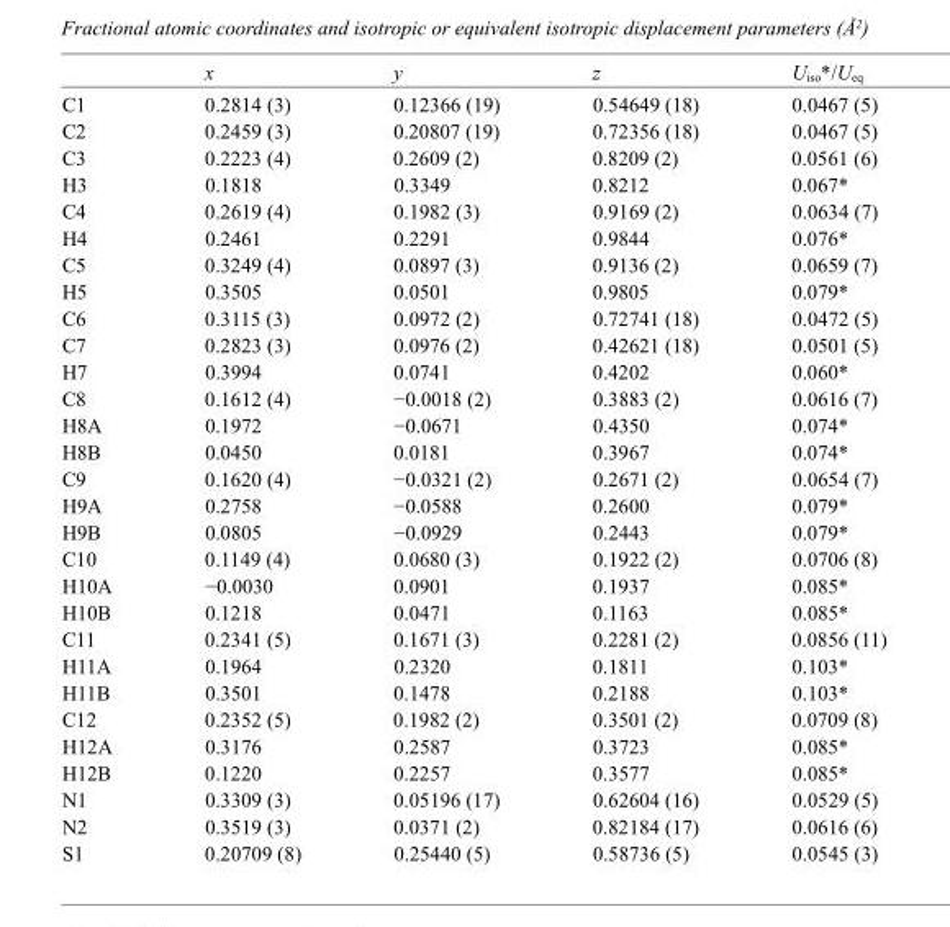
<table><thead><tr><td></td><td>x</td><td>y</td><td>z</td><td>U<sub>iso</sub>*/U<sub>eq</sub></td></tr></thead><tbody><tr><td>C1</td><td>0.2814 (3)</td><td>0.12366 (19)</td><td>0.54649 (18)</td><td>0.0467 (5)</td></tr><tr><td>C2</td><td>0.2459 (3)</td><td>0.20807 (19)</td><td>0.72356 (18)</td><td>0.0467 (5)</td></tr><tr><td>C3</td><td>0.2223 (4)</td><td>0.2609 (2)</td><td>0.8209 (2)</td><td>0.0561 (6)</td></tr><tr><td>H3</td><td>0.1818</td><td>0.3349</td><td>0.8212</td><td>0.067*</td></tr><tr><td>C4</td><td>0.2619 (4)</td><td>0.1982 (3)</td><td>0.9169 (2)</td><td>0.0634 (7)</td></tr><tr><td>H4</td><td>0.2461</td><td>0.2291</td><td>0.9844</td><td>0.076*</td></tr><tr><td>C5</td><td>0.3249 (4)</td><td>0.0897 (3)</td><td>0.9136 (2)</td><td>0.0659 (7)</td></tr><tr><td>H5</td><td>0.3505</td><td>0.0501</td><td>0.9805</td><td>0.079*</td></tr><tr><td>C6</td><td>0.3115 (3)</td><td>0.0972 (2)</td><td>0.72741 (18)</td><td>0.0472 (5)</td></tr><tr><td>C7</td><td>0.2823 (3)</td><td>0.0976 (2)</td><td>0.42621 (18)</td><td>0.0501 (5)</td></tr><tr><td>H7</td><td>0.3994</td><td>0.0741</td><td>0.4202</td><td>0.060*</td></tr><tr><td>C8</td><td>0.1612 (4)</td><td>−0.0018 (2)</td><td>0.3883 (2)</td><td>0.0616 (7)</td></tr><tr><td>H8A</td><td>0.1972</td><td>−0.0671</td><td>0.4350</td><td>0.074*</td></tr><tr><td>H8B</td><td>0.0450</td><td>0.0181</td><td>0.3967</td><td>0.074*</td></tr><tr><td>C9</td><td>0.1620 (4)</td><td>−0.0321 (2)</td><td>0.2671 (2)</td><td>0.0654 (7)</td></tr><tr><td>H9A</td><td>0.2758</td><td>−0.0588</td><td>0.2600</td><td>0.079*</td></tr><tr><td>H9B</td><td>0.0805</td><td>−0.0929</td><td>0.2443</td><td>0.079*</td></tr><tr><td>C10</td><td>0.1149 (4)</td><td>0.0680 (3)</td><td>0.1922 (2)</td><td>0.0706 (8)</td></tr><tr><td>H10A</td><td>−0.0030</td><td>0.0901</td><td>0.1937</td><td>0.085*</td></tr><tr><td>H10B</td><td>0.1218</td><td>0.0471</td><td>0.1163</td><td>0.085*</td></tr><tr><td>C11</td><td>0.2341 (5)</td><td>0.1671 (3)</td><td>0.2281 (2)</td><td>0.0856 (11)</td></tr><tr><td>H11A</td><td>0.1964</td><td>0.2320</td><td>0.1811</td><td>0.103*</td></tr><tr><td>H11B</td><td>0.3501</td><td>0.1478</td><td>0.2188</td><td>0.103*</td></tr><tr><td>C12</td><td>0.2352 (5)</td><td>0.1982 (2)</td><td>0.3501 (2)</td><td>0.0709 (8)</td></tr><tr><td>H12A</td><td>0.3176</td><td>0.2587</td><td>0.3723</td><td>0.085*</td></tr><tr><td>H12B</td><td>0.1220</td><td>0.2257</td><td>0.3577</td><td>0.085*</td></tr><tr><td>N1</td><td>0.3309 (3)</td><td>0.05196 (17)</td><td>0.62604 (16)</td><td>0.0529 (5)</td></tr><tr><td>N2</td><td>0.3519 (3)</td><td>0.0371 (2)</td><td>0.82184 (17)</td><td>0.0616 (6)</td></tr><tr><td>S1</td><td>0.20709 (8)</td><td>0.25440 (5)</td><td>0.58736 (5)</td><td>0.0545 (3)</td></tr></tbody></table>